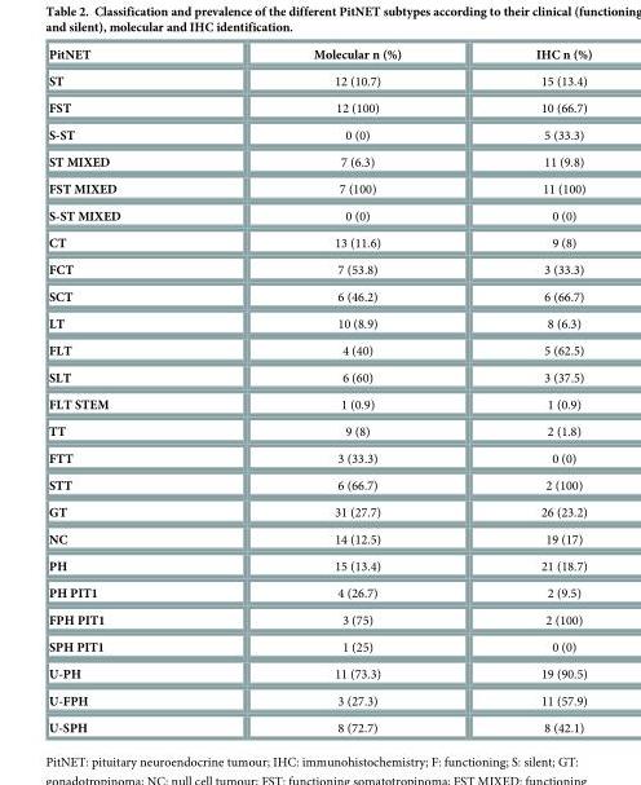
<table><thead><tr><td>PitNET</td><td>Molecular n (%)</td><td>IHC n (%)</td></tr></thead><tbody><tr><td>ST</td><td>12 (10.7)</td><td>15 (13.4)</td></tr><tr><td>FST</td><td>12 (100)</td><td>10 (66.7)</td></tr><tr><td>S-ST</td><td>0 (0)</td><td>5 (33.3)</td></tr><tr><td>ST MIXED</td><td>7 (6.3)</td><td>11 (9.8)</td></tr><tr><td>FST MIXED</td><td>7 (100)</td><td>11 (100)</td></tr><tr><td>S-ST MIXED</td><td>0 (0)</td><td>0 (0)</td></tr><tr><td>CT</td><td>13 (11.6)</td><td>9 (8)</td></tr><tr><td>FCT</td><td>7 (53.8)</td><td>3 (33.3)</td></tr><tr><td>SCT</td><td>6 (46.2)</td><td>6 (66.7)</td></tr><tr><td>LT</td><td>10 (8.9)</td><td>8 (6.3)</td></tr><tr><td>FLT</td><td>4 (40)</td><td>5 (62.5)</td></tr><tr><td>SLT</td><td>6 (60)</td><td>3 (37.5)</td></tr><tr><td>FLT STEM</td><td>1 (0.9)</td><td>1 (0.9)</td></tr><tr><td>TT</td><td>9 (8)</td><td>2 (1.8)</td></tr><tr><td>FTT</td><td>3 (33.3)</td><td>0 (0)</td></tr><tr><td>STT</td><td>6 (66.7)</td><td>2 (100)</td></tr><tr><td>GT</td><td>31 (27.7)</td><td>26 (23.2)</td></tr><tr><td>NC</td><td>14 (12.5)</td><td>19 (17)</td></tr><tr><td>PH</td><td>15 (13.4)</td><td>21 (18.7)</td></tr><tr><td>PH PIT1</td><td>4 (26.7)</td><td>2 (9.5)</td></tr><tr><td>FPH PIT1</td><td>3 (75)</td><td>2 (100)</td></tr><tr><td>SPH PIT1</td><td>1 (25)</td><td>0 (0)</td></tr><tr><td>U-PH</td><td>11 (73.3)</td><td>19 (90.5)</td></tr><tr><td>U-FPH</td><td>3 (27.3)</td><td>11 (57.9)</td></tr><tr><td>U-SPH</td><td>8 (72.7)</td><td>8 (42.1)</td></tr></tbody></table>